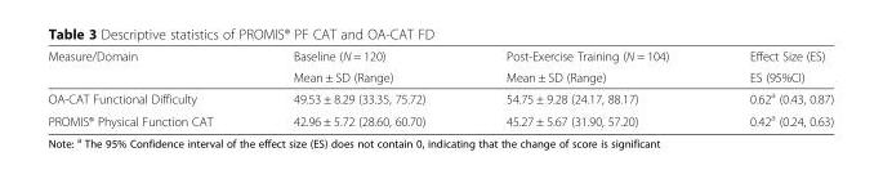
<table><thead><tr><td rowspan="2">Measure/Domain</td><td rowspan="2">Baseline (N = 120) Mean ± SD (Range)</td><td rowspan="2">Post-Exercise Training (N = 104) Mean ± SD (Range)</td><td rowspan="2">Effect Size (ES) ES (95%CI)</td></tr><tr></tr></thead><tbody><tr><td>OA-CAT Functional Difficulty</td><td>49.53 ± 8.29 (33.35, 75.72)</td><td>54.75 ± 9.28 (24.17, 88.17)</td><td>0.62<sup>a</sup> (0.43, 0.87)</td></tr><tr><td>PROMIS® Physical Function CAT</td><td>42.96 ± 5.72 (28.60, 60.70)</td><td>45.27 ± 5.67 (31.90, 57.20)</td><td>0.42<sup>a</sup> (0.24, 0.63)</td></tr></tbody></table>